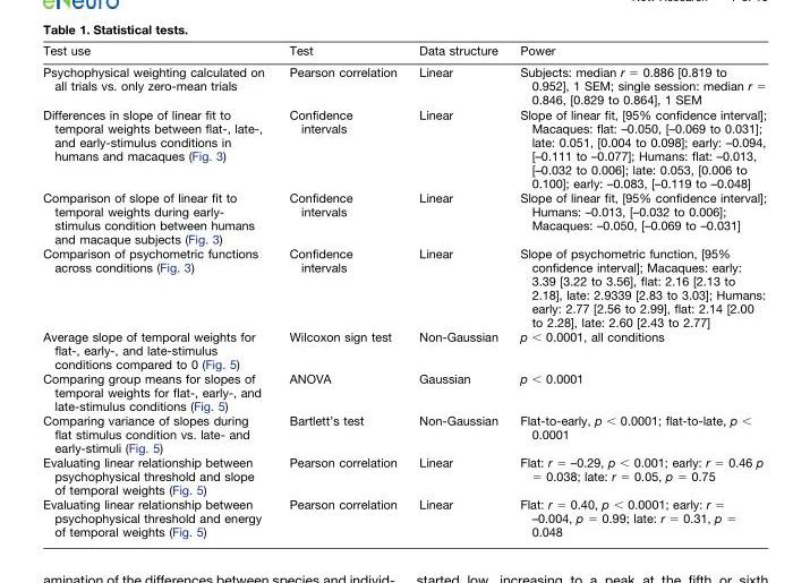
<table><thead><tr><td>Test use</td><td>Test</td><td>Data structure</td><td>Power</td></tr></thead><tbody><tr><td>Psychophysical weighting calculated on all trials vs. only zero-mean trials</td><td>Pearson correlation</td><td>Linear</td><td>Subjects: median r = 0.886 [0.819 to 0.952], 1 SEM; single session: median r = 0.846, [0.829 to 0.864], 1 SEM</td></tr><tr><td>Differences in slope of linear fit to temporal weights between flat-, late-, and early-stimulus conditions in humans and macaques (Fig. 3)</td><td>Confidence intervals</td><td>Linear</td><td>Slope of linear fit, [95% confidence interval]; Macaques: flat: –0.050, [–0.069 to 0.031]; late: 0.051, [0.004 to 0.098]; early: –0.094, [–0.111 to –0.077]; Humans: flat: –0.013, [–0.032 to 0.006]; late: 0.053, [0.006 to 0.100]; early: –0.083, [–0.119 to –0.048]</td></tr><tr><td>Comparison of slope of linear fit to temporal weights during early- stimulus condition between humans and macaque subjects (Fig. 3)</td><td>Confidence intervals</td><td>Linear</td><td>Slope of linear fit, [95% confidence interval]; Humans: –0.013, [–0.032 to 0.006]; Macaques: –0.050, [–0.069 to –0.031]</td></tr><tr><td>Comparison of psychometric functions across conditions (Fig. 3)</td><td>Confidence intervals</td><td>Linear</td><td>Slope of psychometric function, [95% confidence interval]; Macaques: early: 3.39 [3.22 to 3.56], flat: 2.16 [2.13 to 2.18], late: 2.9339 [2.83 to 3.03]; Humans: early: 2.77 [2.56 to 2.99], flat: 2.14 [2.00 to 2.28], late: 2.60 [2.43 to 2.77]</td></tr><tr><td>Average slope of temporal weights for flat-, early-, and late-stimulus conditions compared to 0 (Fig. 5)</td><td>Wilcoxon sign test</td><td>Non-Gaussian</td><td>p &lt; 0.0001, all conditions</td></tr><tr><td>Comparing group means for slopes of temporal weights for flat-, early-, and late-stimulus conditions (Fig. 5)</td><td>ANOVA</td><td>Gaussian</td><td>p &lt; 0.0001</td></tr><tr><td>Comparing variance of slopes during flat stimulus condition vs. late- and early-stimuli (Fig. 5)</td><td>Bartlett’s test</td><td>Non-Gaussian</td><td>Flat-to-early, p &lt; 0.0001; flat-to-late, p &lt; 0.0001</td></tr><tr><td>Evaluating linear relationship between psychophysical threshold and slope of temporal weights (Fig. 5)</td><td>Pearson correlation</td><td>Linear</td><td>Flat: r = –0.29, p &lt; 0.001; early: r = 0.46 p = 0.038; late: r = 0.05, p = 0.75</td></tr><tr><td>Evaluating linear relationship between psychophysical threshold and energy of temporal weights (Fig. 5)</td><td>Pearson correlation</td><td>Linear</td><td>Flat: r = 0.40, p &lt; 0.0001; early: r = –0.004, p = 0.99; late: r = 0.31, p = 0.048</td></tr></tbody></table>